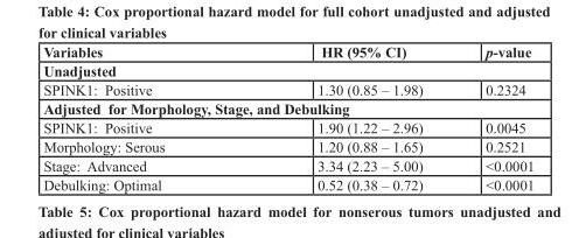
<table><thead><tr><td>Variables</td><td>HR (95% CI)</td><td>p-value</td></tr></thead><tbody><tr><td colspan="3">Unadjusted</td></tr><tr><td>SPINK1: Positive</td><td>1.30 (0.85 – 1.98)</td><td>0.2324</td></tr><tr><td colspan="3">Adjusted for Morphology, Stage, and Debulking</td></tr><tr><td>SPINK1: Positive</td><td>1.90 (1.22 – 2.96)</td><td>0.0045</td></tr><tr><td>Morphology: Serous</td><td>1.20 (0.88 – 1.65)</td><td>0.2521</td></tr><tr><td>Stage: Advanced</td><td>3.34 (2.23 – 5.00)</td><td>&lt;0.0001</td></tr><tr><td>Debulking: Optimal</td><td>0.52 (0.38 – 0.72)</td><td>&lt;0.0001</td></tr></tbody></table>